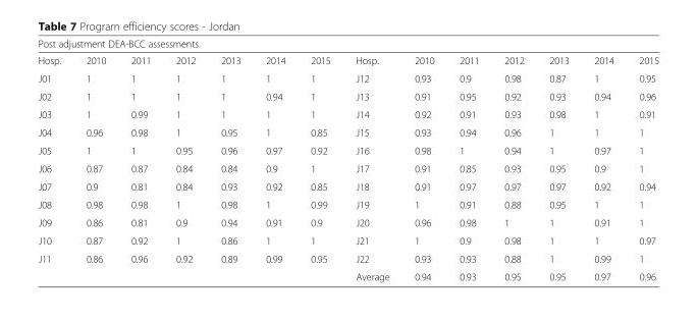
<table><thead><tr><td colspan="14">Post adjustment DEA-BCC assessments.</td></tr><tr><td>Hosp.</td><td>2010</td><td>2011</td><td>2012</td><td>2013</td><td>2014</td><td>2015</td><td>Hosp.</td><td>2010</td><td>2011</td><td>2012</td><td>2013</td><td>2014</td><td>2015</td></tr></thead><tbody><tr><td>J01</td><td>1</td><td>1</td><td>1</td><td>1</td><td>1</td><td>1</td><td>J12</td><td>0.93</td><td>0.9</td><td>0.98</td><td>0.87</td><td>1</td><td>0.95</td></tr><tr><td>J02</td><td>1</td><td>1</td><td>1</td><td>1</td><td>0.94</td><td>1</td><td>J13</td><td>0.91</td><td>0.95</td><td>0.92</td><td>0.93</td><td>0.94</td><td>0.96</td></tr><tr><td>J03</td><td>1</td><td>0.99</td><td>1</td><td>1</td><td>1</td><td>1</td><td>J14</td><td>0.92</td><td>0.91</td><td>0.93</td><td>0.98</td><td>1</td><td>0.91</td></tr><tr><td>J04</td><td>0.96</td><td>0.98</td><td>1</td><td>0.95</td><td>1</td><td>0.85</td><td>J15</td><td>0.93</td><td>0.94</td><td>0.96</td><td>1</td><td>1</td><td>1</td></tr><tr><td>J05</td><td>1</td><td>1</td><td>0.95</td><td>0.96</td><td>0.97</td><td>0.92</td><td>J16</td><td>0.98</td><td>1</td><td>0.94</td><td>1</td><td>0.97</td><td>1</td></tr><tr><td>J06</td><td>0.87</td><td>0.87</td><td>0.84</td><td>0.84</td><td>0.9</td><td>1</td><td>J17</td><td>0.91</td><td>0.85</td><td>0.93</td><td>0.95</td><td>0.9</td><td>1</td></tr><tr><td>J07</td><td>0.9</td><td>0.81</td><td>0.84</td><td>0.93</td><td>0.92</td><td>0.85</td><td>J18</td><td>0.91</td><td>0.97</td><td>0.97</td><td>0.97</td><td>0.92</td><td>0.94</td></tr><tr><td>J08</td><td>0.98</td><td>0.98</td><td>1</td><td>0.98</td><td>1</td><td>0.99</td><td>J19</td><td>1</td><td>0.91</td><td>0.88</td><td>0.95</td><td>1</td><td>1</td></tr><tr><td>J09</td><td>0.86</td><td>0.81</td><td>0.9</td><td>0.94</td><td>0.91</td><td>0.9</td><td>J20</td><td>0.96</td><td>0.98</td><td>1</td><td>1</td><td>0.91</td><td>1</td></tr><tr><td>J10</td><td>0.87</td><td>0.92</td><td>1</td><td>0.86</td><td>1</td><td>1</td><td>J21</td><td>1</td><td>0.9</td><td>0.98</td><td>1</td><td>1</td><td>0.97</td></tr><tr><td rowspan="2">J11</td><td>0.86</td><td>0.96</td><td>0.92</td><td>0.89</td><td>0.99</td><td>0.95</td><td>J22</td><td>0.93</td><td>0.93</td><td>0.88</td><td>1</td><td>0.99</td><td>1</td></tr><tr><td></td><td></td><td></td><td></td><td></td><td></td><td>Average</td><td>0.94</td><td>0.93</td><td>0.95</td><td>0.95</td><td>0.97</td><td>0.96</td></tr></tbody></table>